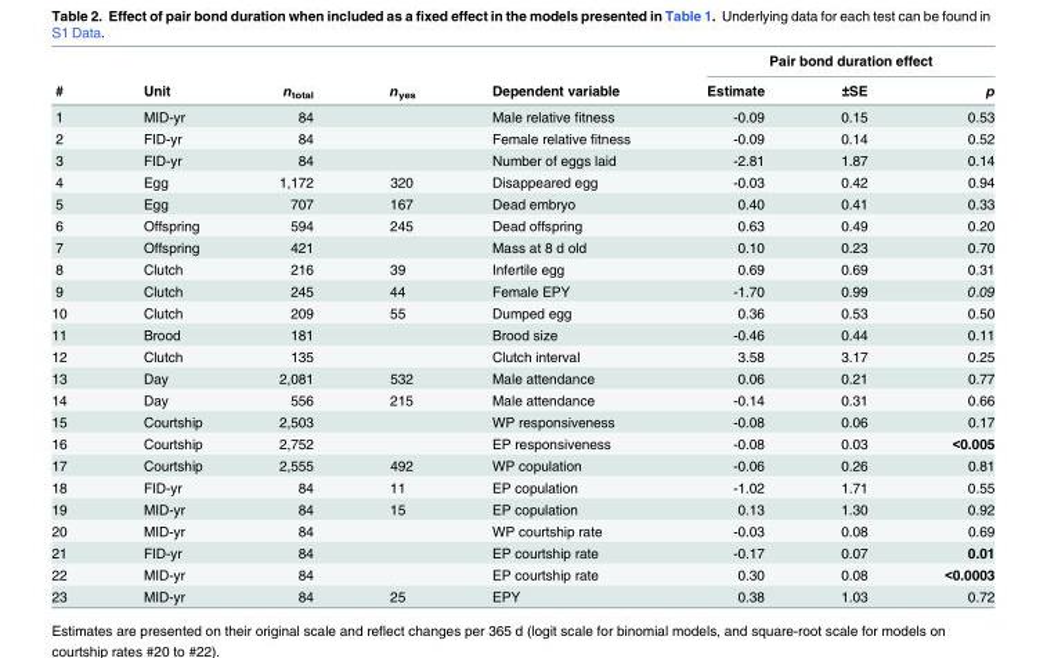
<table><thead><tr><td rowspan="2">#</td><td rowspan="2">Unit</td><td rowspan="2">n<sub>total</sub></td><td rowspan="2">n<sub>yes</sub></td><td rowspan="2">Dependent variable</td><td colspan="3">Pair bond duration effect</td></tr><tr><td>Estimate</td><td>±SE</td><td>p</td></tr></thead><tbody><tr><td>1</td><td>MID-yr</td><td>84</td><td></td><td>Male relative fitness</td><td>-0.09</td><td>0.15</td><td>0.53</td></tr><tr><td>2</td><td>FID-yr</td><td>84</td><td></td><td>Female relative fitness</td><td>-0.09</td><td>0.14</td><td>0.52</td></tr><tr><td>3</td><td>FID-yr</td><td>84</td><td></td><td>Number of eggs laid</td><td>-2.81</td><td>1.87</td><td>0.14</td></tr><tr><td>4</td><td>Egg</td><td>1,172</td><td>320</td><td>Disappeared egg</td><td>-0.03</td><td>0.42</td><td>0.94</td></tr><tr><td>5</td><td>Egg</td><td>707</td><td>167</td><td>Dead embryo</td><td>0.40</td><td>0.41</td><td>0.33</td></tr><tr><td>6</td><td>Offspring</td><td>594</td><td>245</td><td>Dead offspring</td><td>0.63</td><td>0.49</td><td>0.20</td></tr><tr><td>7</td><td>Offspring</td><td>421</td><td></td><td>Mass at 8 d old</td><td>0.10</td><td>0.23</td><td>0.70</td></tr><tr><td>8</td><td>Clutch</td><td>216</td><td>39</td><td>Infertile egg</td><td>0.69</td><td>0.69</td><td>0.31</td></tr><tr><td>9</td><td>Clutch</td><td>245</td><td>44</td><td>Female EPY</td><td>-1.70</td><td>0.99</td><td>0.09</td></tr><tr><td>10</td><td>Clutch</td><td>209</td><td>55</td><td>Dumped egg</td><td>0.36</td><td>0.53</td><td>0.50</td></tr><tr><td>11</td><td>Brood</td><td>181</td><td></td><td>Brood size</td><td>-0.46</td><td>0.44</td><td>0.11</td></tr><tr><td>12</td><td>Clutch</td><td>135</td><td></td><td>Clutch interval</td><td>3.58</td><td>3.17</td><td>0.25</td></tr><tr><td>13</td><td>Day</td><td>2,081</td><td>532</td><td>Male attendance</td><td>0.06</td><td>0.21</td><td>0.77</td></tr><tr><td>14</td><td>Day</td><td>556</td><td>215</td><td>Male attendance</td><td>-0.14</td><td>0.31</td><td>0.66</td></tr><tr><td>15</td><td>Courtship</td><td>2,503</td><td></td><td>WP responsiveness</td><td>-0.08</td><td>0.06</td><td>0.17</td></tr><tr><td>16</td><td>Courtship</td><td>2,752</td><td></td><td>EP responsiveness</td><td>-0.08</td><td>0.03</td><td>&lt;0.005</td></tr><tr><td>17</td><td>Courtship</td><td>2,555</td><td>492</td><td>WP copulation</td><td>-0.06</td><td>0.26</td><td>0.81</td></tr><tr><td>18</td><td>FID-yr</td><td>84</td><td>11</td><td>EP copulation</td><td>-1.02</td><td>1.71</td><td>0.55</td></tr><tr><td>19</td><td>MID-yr</td><td>84</td><td>15</td><td>EP copulation</td><td>0.13</td><td>1.30</td><td>0.92</td></tr><tr><td>20</td><td>MID-yr</td><td>84</td><td></td><td>WP courtship rate</td><td>-0.03</td><td>0.08</td><td>0.69</td></tr><tr><td>21</td><td>FID-yr</td><td>84</td><td></td><td>EP courtship rate</td><td>-0.17</td><td>0.07</td><td>0.01</td></tr><tr><td>22</td><td>MID-yr</td><td>84</td><td></td><td>EP courtship rate</td><td>0.30</td><td>0.08</td><td>&lt;0.0003</td></tr><tr><td>23</td><td>MID-yr</td><td>84</td><td>25</td><td>EPY</td><td>0.38</td><td>1.03</td><td>0.72</td></tr></tbody></table>